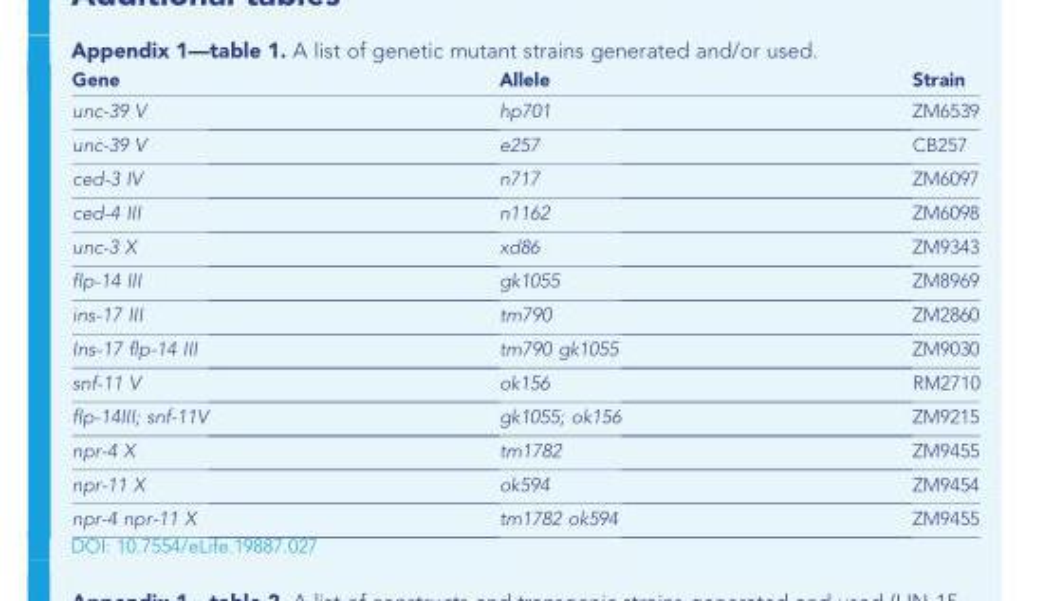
<table><thead><tr><td>Gene</td><td>Allele</td><td>Strain</td></tr></thead><tbody><tr><td>unc-39 V</td><td>hp701</td><td>ZM6539</td></tr><tr><td>unc-39 V</td><td>e257</td><td>CB257</td></tr><tr><td>ced-3 IV</td><td>n717</td><td>ZM6097</td></tr><tr><td>ced-4 III</td><td>n1162</td><td>ZM6098</td></tr><tr><td>unc-3 X</td><td>xd86</td><td>ZM9343</td></tr><tr><td>flp-14 III</td><td>gk1055</td><td>ZM8969</td></tr><tr><td>ins-17 III</td><td>tm790</td><td>ZM2860</td></tr><tr><td>Ins-17 flp-14 III</td><td>tm790 gk1055</td><td>ZM9030</td></tr><tr><td>snf-11 V</td><td>ok156</td><td>RM2710</td></tr><tr><td>flp-14III; snf-11V</td><td>gk1055; ok156</td><td>ZM9215</td></tr><tr><td>npr-4 X</td><td>tm1782</td><td>ZM9455</td></tr><tr><td>npr-11 X</td><td>ok594</td><td>ZM9454</td></tr><tr><td>npr-4 npr-11 X</td><td>tm1782 ok594</td><td>ZM9455</td></tr></tbody></table>